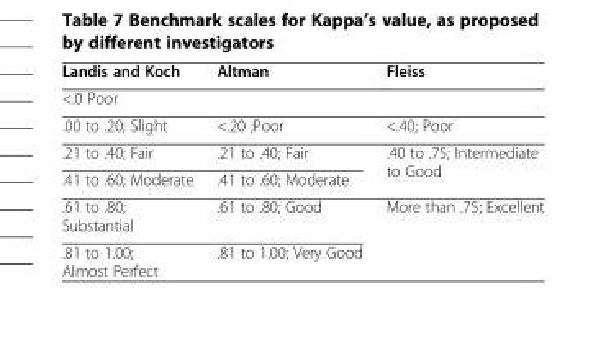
<table><thead><tr><td>Landis and Koch</td><td>Altman</td><td>Fleiss</td></tr></thead><tbody><tr><td colspan="3">&lt;.0 Poor</td></tr><tr><td>.00 to .20; Slight</td><td>&lt;.20 ;Poor</td><td>&lt;.40; Poor</td></tr><tr><td>.21 to .40; Fair</td><td>.21 to .40; Fair</td><td rowspan="2">.40 to .75; Intermediate to Good</td></tr><tr><td>.41 to .60; Moderate</td><td>.41 to .60; Moderate</td></tr><tr><td>.61 to .80; Substantial</td><td>.61 to .80; Good</td><td rowspan="2">More than .75; Excellent</td></tr><tr><td>.81 to 1.00; Almost Perfect</td><td>.81 to 1.00; Very Good</td></tr></tbody></table>